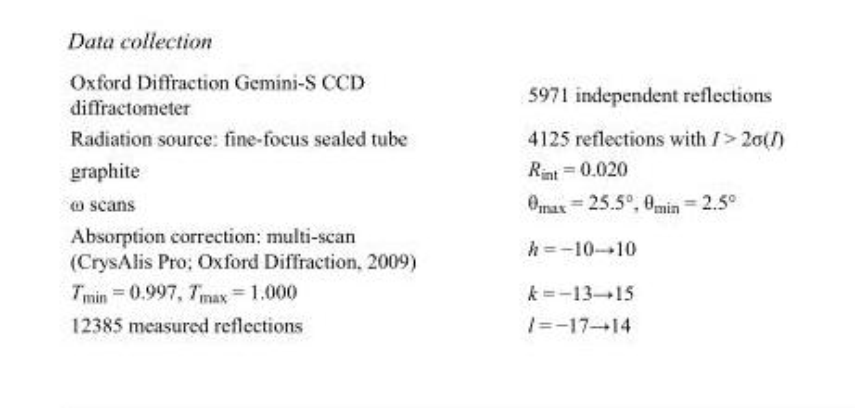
<table><tbody><tr><td>Oxford Diffraction Gemini-S CCD diffractometer</td><td>5971 independent reflections</td></tr><tr><td>Radiation source: fine-focus sealed tube</td><td>4125 reflections with I &gt; 2σ(I)</td></tr><tr><td>graphite</td><td>R<sub>int</sub> = 0.020</td></tr><tr><td>ω scans</td><td>θ<sub>max</sub> = 25.5°, θ<sub>min</sub> = 2.5°</td></tr><tr><td>Absorption correction: multi-scan (CrysAlis Pro; Oxford Diffraction, 2009)</td><td>h = −10→10</td></tr><tr><td>T<sub>min</sub> = 0.997, T<sub>max</sub> = 1.000</td><td>k = −13→15</td></tr><tr><td>12385 measured reflections</td><td>l = −17→14</td></tr></tbody></table>